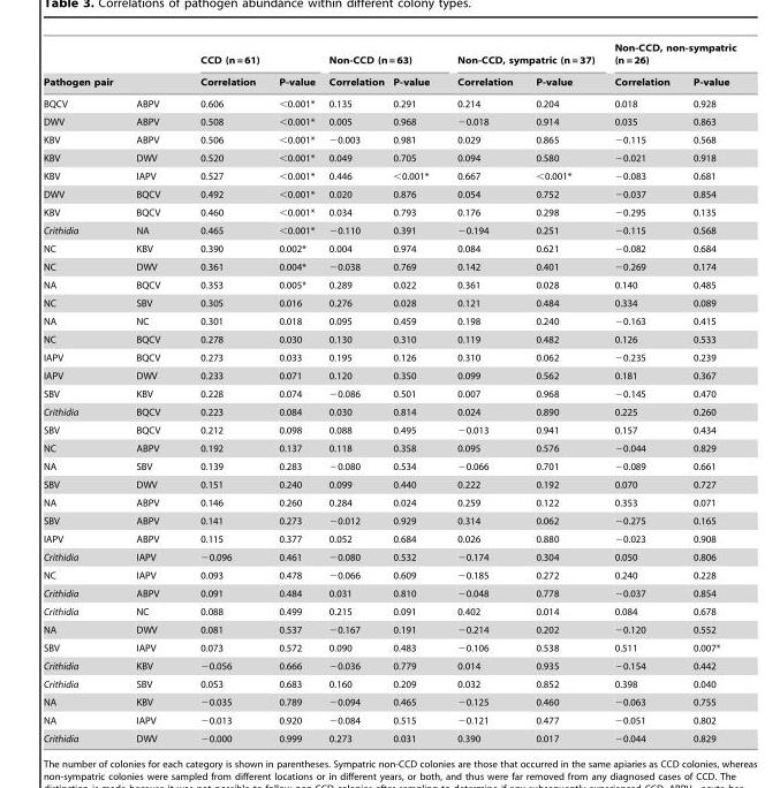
<table><thead><tr><td></td><td></td><td colspan="2">CCD (n = 61)</td><td colspan="2">Non-CCD (n = 63)</td><td colspan="2">Non-CCD, sympatric (n = 37)</td><td colspan="2">Non-CCD, non-sympatric (n = 26)</td></tr><tr><td colspan="2">Pathogen pair</td><td>Correlation</td><td>P-value</td><td>Correlation</td><td>P-value</td><td>Correlation</td><td>P-value</td><td>Correlation</td><td>P-value</td></tr></thead><tbody><tr><td>BQCV</td><td>ABPV</td><td>0.606</td><td>&lt;0.001*</td><td>0.135</td><td>0.291</td><td>0.214</td><td>0.204</td><td>0.018</td><td>0.928</td></tr><tr><td>DWV</td><td>ABPV</td><td>0.508</td><td>&lt;0.001*</td><td>0.005</td><td>0.968</td><td>−0.018</td><td>0.914</td><td>0.035</td><td>0.863</td></tr><tr><td>KBV</td><td>ABPV</td><td>0.506</td><td>&lt;0.001*</td><td>−0.003</td><td>0.981</td><td>0.029</td><td>0.865</td><td>−0.115</td><td>0.568</td></tr><tr><td>KBV</td><td>DWV</td><td>0.520</td><td>&lt;0.001*</td><td>0.049</td><td>0.705</td><td>0.094</td><td>0.580</td><td>−0.021</td><td>0.918</td></tr><tr><td>KBV</td><td>IAPV</td><td>0.527</td><td>&lt;0.001*</td><td>0.446</td><td>&lt;0.001*</td><td>0.667</td><td>&lt;0.001*</td><td>−0.083</td><td>0.681</td></tr><tr><td>DWV</td><td>BQCV</td><td>0.492</td><td>&lt;0.001*</td><td>0.020</td><td>0.876</td><td>0.054</td><td>0.752</td><td>−0.037</td><td>0.854</td></tr><tr><td>KBV</td><td>BQCV</td><td>0.460</td><td>&lt;0.001*</td><td>0.034</td><td>0.793</td><td>0.176</td><td>0.298</td><td>−0.295</td><td>0.135</td></tr><tr><td>Crithidia</td><td>NA</td><td>0.465</td><td>&lt;0.001*</td><td>−0.110</td><td>0.391</td><td>−0.194</td><td>0.251</td><td>−0.115</td><td>0.568</td></tr><tr><td>NC</td><td>KBV</td><td>0.390</td><td>0.002*</td><td>0.004</td><td>0.974</td><td>0.084</td><td>0.621</td><td>−0.082</td><td>0.684</td></tr><tr><td>NC</td><td>DWV</td><td>0.361</td><td>0.004*</td><td>−0.038</td><td>0.769</td><td>0.142</td><td>0.401</td><td>−0.269</td><td>0.174</td></tr><tr><td>NA</td><td>BQCV</td><td>0.353</td><td>0.005*</td><td>0.289</td><td>0.022</td><td>0.361</td><td>0.028</td><td>0.140</td><td>0.485</td></tr><tr><td>NC</td><td>SBV</td><td>0.305</td><td>0.016</td><td>0.276</td><td>0.028</td><td>0.121</td><td>0.484</td><td>0.334</td><td>0.089</td></tr><tr><td>NA</td><td>NC</td><td>0.301</td><td>0.018</td><td>0.095</td><td>0.459</td><td>0.198</td><td>0.240</td><td>−0.163</td><td>0.415</td></tr><tr><td>NC</td><td>BQCV</td><td>0.278</td><td>0.030</td><td>0.130</td><td>0.310</td><td>0.119</td><td>0.482</td><td>0.126</td><td>0.533</td></tr><tr><td>IAPV</td><td>BQCV</td><td>0.273</td><td>0.033</td><td>0.195</td><td>0.126</td><td>0.310</td><td>0.062</td><td>−0.235</td><td>0.239</td></tr><tr><td>IAPV</td><td>DWV</td><td>0.233</td><td>0.071</td><td>0.120</td><td>0.350</td><td>0.099</td><td>0.562</td><td>0.181</td><td>0.367</td></tr><tr><td>SBV</td><td>KBV</td><td>0.228</td><td>0.074</td><td>−0.086</td><td>0.501</td><td>0.007</td><td>0.968</td><td>−0.145</td><td>0.470</td></tr><tr><td>Crithidia</td><td>BQCV</td><td>0.223</td><td>0.084</td><td>0.030</td><td>0.814</td><td>0.024</td><td>0.890</td><td>0.225</td><td>0.260</td></tr><tr><td>SBV</td><td>BQCV</td><td>0.212</td><td>0.098</td><td>0.088</td><td>0.495</td><td>−0.013</td><td>0.941</td><td>0.157</td><td>0.434</td></tr><tr><td>NC</td><td>ABPV</td><td>0.192</td><td>0.137</td><td>0.118</td><td>0.358</td><td>0.095</td><td>0.576</td><td>−0.044</td><td>0.829</td></tr><tr><td>NA</td><td>SBV</td><td>0.139</td><td>0.283</td><td>−0.080</td><td>0.534</td><td>−0.066</td><td>0.701</td><td>−0.089</td><td>0.661</td></tr><tr><td>SBV</td><td>DWV</td><td>0.151</td><td>0.240</td><td>0.099</td><td>0.440</td><td>0.222</td><td>0.192</td><td>0.070</td><td>0.727</td></tr><tr><td>NA</td><td>ABPV</td><td>0.146</td><td>0.260</td><td>0.284</td><td>0.024</td><td>0.259</td><td>0.122</td><td>0.353</td><td>0.071</td></tr><tr><td>SBV</td><td>ABPV</td><td>0.141</td><td>0.273</td><td>−0.012</td><td>0.929</td><td>0.314</td><td>0.062</td><td>−0.275</td><td>0.165</td></tr><tr><td>IAPV</td><td>ABPV</td><td>0.115</td><td>0.377</td><td>0.052</td><td>0.684</td><td>0.026</td><td>0.880</td><td>−0.023</td><td>0.908</td></tr><tr><td>Crithidia</td><td>IAPV</td><td>−0.096</td><td>0.461</td><td>−0.080</td><td>0.532</td><td>−0.174</td><td>0.304</td><td>0.050</td><td>0.806</td></tr><tr><td>NC</td><td>IAPV</td><td>0.093</td><td>0.478</td><td>−0.066</td><td>0.609</td><td>−0.185</td><td>0.272</td><td>0.240</td><td>0.228</td></tr><tr><td>Crithidia</td><td>ABPV</td><td>0.091</td><td>0.484</td><td>0.031</td><td>0.810</td><td>−0.048</td><td>0.778</td><td>−0.037</td><td>0.854</td></tr><tr><td>Crithidia</td><td>NC</td><td>0.088</td><td>0.499</td><td>0.215</td><td>0.091</td><td>0.402</td><td>0.014</td><td>0.084</td><td>0.678</td></tr><tr><td>NA</td><td>DWV</td><td>0.081</td><td>0.537</td><td>−0.167</td><td>0.191</td><td>−0.214</td><td>0.202</td><td>−0.120</td><td>0.552</td></tr><tr><td>SBV</td><td>IAPV</td><td>0.073</td><td>0.572</td><td>0.090</td><td>0.483</td><td>−0.106</td><td>0.538</td><td>0.511</td><td>0.007*</td></tr><tr><td>Crithidia</td><td>KBV</td><td>−0.056</td><td>0.666</td><td>−0.036</td><td>0.779</td><td>0.014</td><td>0.935</td><td>−0.154</td><td>0.442</td></tr><tr><td>Crithidia</td><td>SBV</td><td>0.053</td><td>0.683</td><td>0.160</td><td>0.209</td><td>0.032</td><td>0.852</td><td>0.398</td><td>0.040</td></tr><tr><td>NA</td><td>KBV</td><td>−0.035</td><td>0.789</td><td>−0.094</td><td>0.465</td><td>−0.125</td><td>0.460</td><td>−0.063</td><td>0.755</td></tr><tr><td>NA</td><td>IAPV</td><td>−0.013</td><td>0.920</td><td>−0.084</td><td>0.515</td><td>−0.121</td><td>0.477</td><td>−0.051</td><td>0.802</td></tr><tr><td>Crithidia</td><td>DWV</td><td>−0.000</td><td>0.999</td><td>0.273</td><td>0.031</td><td>0.390</td><td>0.017</td><td>−0.044</td><td>0.829</td></tr></tbody></table>